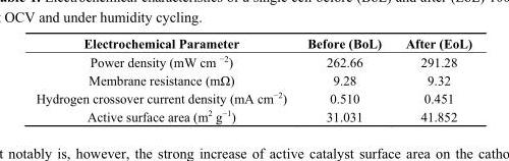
<table><thead><tr><td>Electrochemical Parameter</td><td>Before (BoL)</td><td>After (EoL)</td></tr></thead><tbody><tr><td>Power density (mW cm <sup>−2</sup>)</td><td>262.66</td><td>291.28</td></tr><tr><td>Membrane resistance (mΩ)</td><td>9.28</td><td>9.32</td></tr><tr><td>Hydrogen crossover current density (mA cm<sup>−2</sup>)</td><td>0.510</td><td>0.451</td></tr><tr><td>Active surface area (m<sup>2</sup> g<sup>−1</sup>)</td><td>31.031</td><td>41.852</td></tr></tbody></table>